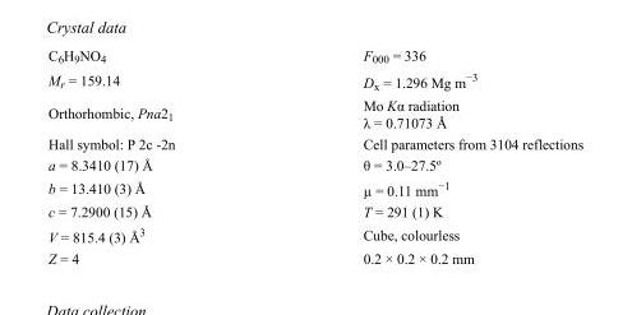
<table><tbody><tr><td>C<sub>6</sub>H<sub>9</sub>NO<sub>4</sub></td><td>F<sub>000</sub> = 336</td></tr><tr><td>M<sub>r</sub> = 159.14</td><td>D<sub>x</sub> = 1.296 Mg m<sup>−3</sup></td></tr><tr><td>Orthorhombic, Pna2<sub>1</sub></td><td>Mo Kα radiation λ = 0.71073 Å</td></tr><tr><td>Hall symbol: P 2c -2n</td><td>Cell parameters from 3104 reflections</td></tr><tr><td>a = 8.3410 (17) Å</td><td>θ = 3.0–27.5º</td></tr><tr><td>b = 13.410 (3) Å</td><td>µ = 0.11 mm<sup>−1</sup></td></tr><tr><td>c = 7.2900 (15) Å</td><td>T = 291 (1) K</td></tr><tr><td>V = 815.4 (3) Å<sup>3</sup></td><td>Cube, colourless</td></tr><tr><td>Z = 4</td><td>0.2 × 0.2 × 0.2 mm</td></tr></tbody></table>